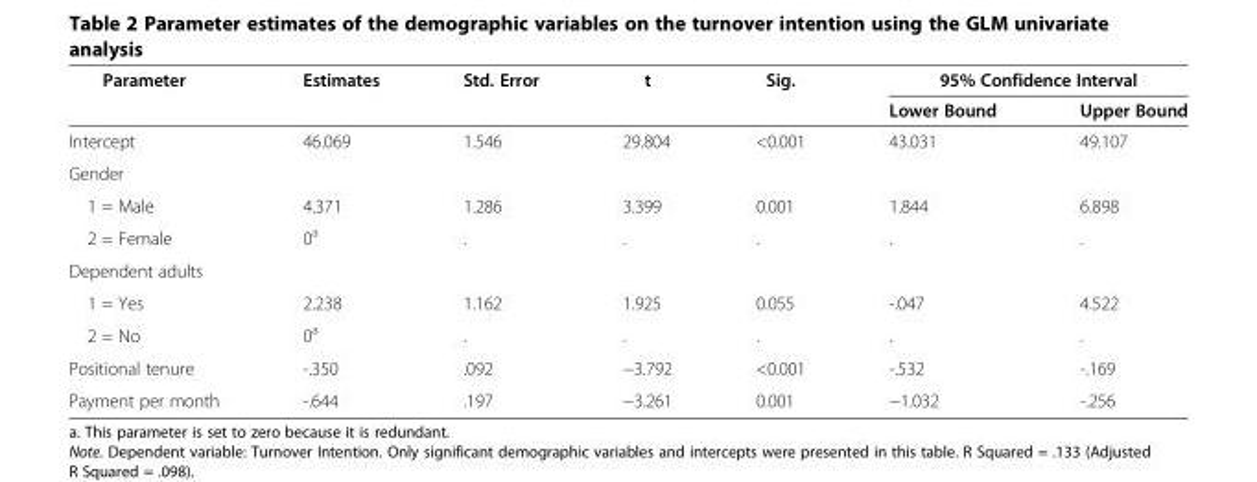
<table><thead><tr><td rowspan="2">Parameter</td><td rowspan="2">Estimates</td><td rowspan="2">Std. Error</td><td rowspan="2">t</td><td rowspan="2">Sig.</td><td colspan="2">95% Confidence Interval</td></tr><tr><td>Lower Bound</td><td>Upper Bound</td></tr></thead><tbody><tr><td>Intercept</td><td>46.069</td><td>1.546</td><td>29.804</td><td>&lt;0.001</td><td>43.031</td><td>49.107</td></tr><tr><td colspan="7">Gender</td></tr><tr><td>1 = Male</td><td>4.371</td><td>1.286</td><td>3.399</td><td>0.001</td><td>1.844</td><td>6.898</td></tr><tr><td>2 = Female</td><td>0<sup>a</sup></td><td>.</td><td>.</td><td>.</td><td>.</td><td>.</td></tr><tr><td colspan="7">Dependent adults</td></tr><tr><td>1 = Yes</td><td>2.238</td><td>1.162</td><td>1.925</td><td>0.055</td><td>-.047</td><td>4.522</td></tr><tr><td>2 = No</td><td>0<sup>a</sup></td><td>.</td><td>.</td><td>.</td><td>.</td><td>.</td></tr><tr><td>Positional tenure</td><td>-.350</td><td>.092</td><td>−3.792</td><td>&lt;0.001</td><td>-.532</td><td>-.169</td></tr><tr><td>Payment per month</td><td>-.644</td><td>.197</td><td>−3.261</td><td>0.001</td><td>−1.032</td><td>-.256</td></tr></tbody></table>